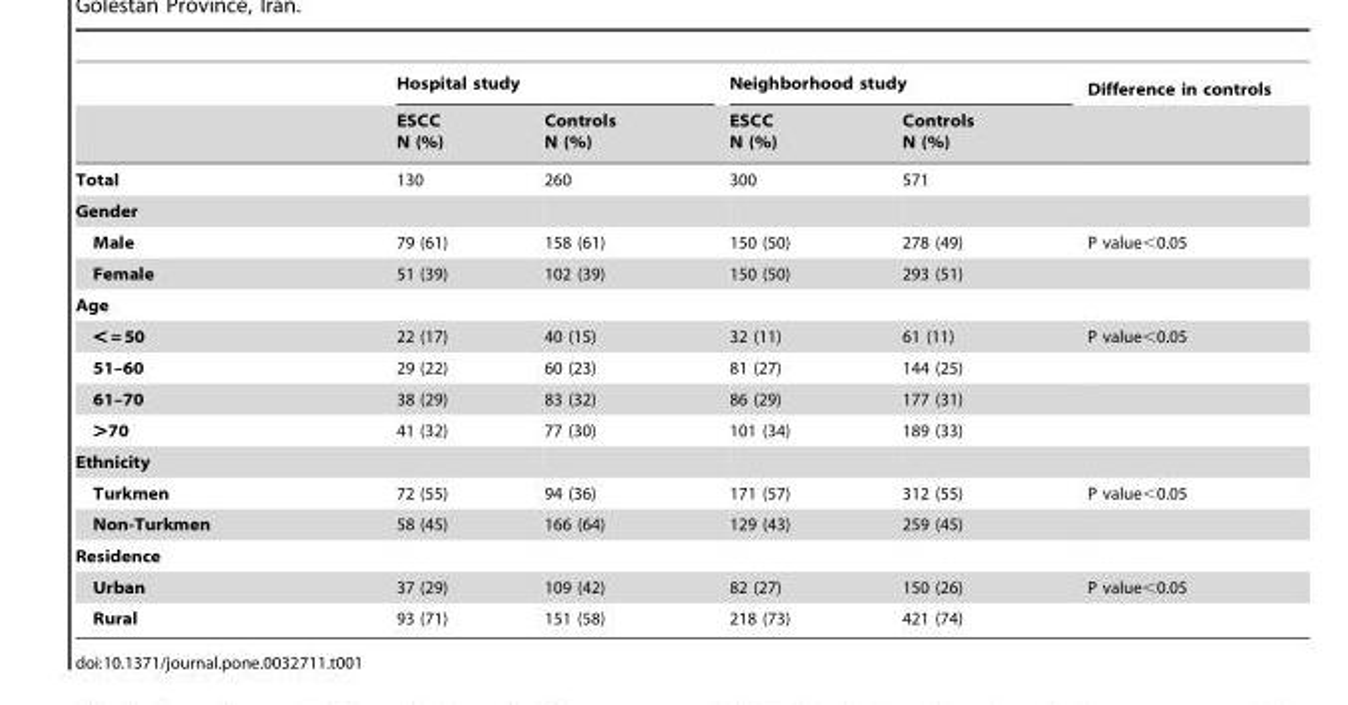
<table><thead><tr><td rowspan="2"></td><td colspan="2">Hospital study</td><td colspan="2">Neighborhood study</td><td rowspan="2">Difference in controls</td></tr><tr><td>ESCC N (%)</td><td>Controls N (%)</td><td>ESCC N (%)</td><td>Controls N (%)</td></tr></thead><tbody><tr><td>Total</td><td>130</td><td>260</td><td>300</td><td>571</td><td></td></tr><tr><td colspan="6">Gender</td></tr><tr><td>Male</td><td>79 (61)</td><td>158 (61)</td><td>150 (50)</td><td>278 (49)</td><td>P value&lt;0.05</td></tr><tr><td>Female</td><td>51 (39)</td><td>102 (39)</td><td>150 (50)</td><td>293 (51)</td><td></td></tr><tr><td colspan="6">Age</td></tr><tr><td>&lt; = 50</td><td>22 (17)</td><td>40 (15)</td><td>32 (11)</td><td>61 (11)</td><td>P value&lt;0.05</td></tr><tr><td>51–60</td><td>29 (22)</td><td>60 (23)</td><td>81 (27)</td><td>144 (25)</td><td></td></tr><tr><td>61–70</td><td>38 (29)</td><td>83 (32)</td><td>86 (29)</td><td>177 (31)</td><td></td></tr><tr><td>&gt;70</td><td>41 (32)</td><td>77 (30)</td><td>101 (34)</td><td>189 (33)</td><td></td></tr><tr><td colspan="6">Ethnicity</td></tr><tr><td>Turkmen</td><td>72 (55)</td><td>94 (36)</td><td>171 (57)</td><td>312 (55)</td><td>P value&lt;0.05</td></tr><tr><td>Non-Turkmen</td><td>58 (45)</td><td>166 (64)</td><td>129 (43)</td><td>259 (45)</td><td></td></tr><tr><td colspan="6">Residence</td></tr><tr><td>Urban</td><td>37 (29)</td><td>109 (42)</td><td>82 (27)</td><td>150 (26)</td><td>P value&lt;0.05</td></tr><tr><td>Rural</td><td>93 (71)</td><td>151 (58)</td><td>218 (73)</td><td>421 (74)</td><td></td></tr></tbody></table>